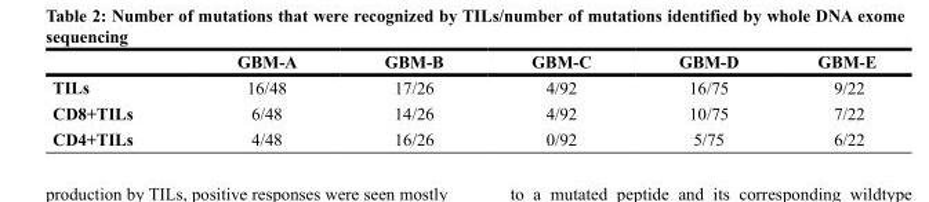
<table><thead><tr><td></td><td>GBM-A</td><td>GBM-B</td><td>GBM-C</td><td>GBM-D</td><td>GBM-E</td></tr></thead><tbody><tr><td>TILs</td><td>16/48</td><td>17/26</td><td>4/92</td><td>16/75</td><td>9/22</td></tr><tr><td>CD8+TILs</td><td>6/48</td><td>14/26</td><td>4/92</td><td>10/75</td><td>7/22</td></tr><tr><td>CD4+TILs</td><td>4/48</td><td>16/26</td><td>0/92</td><td>5/75</td><td>6/22</td></tr></tbody></table>